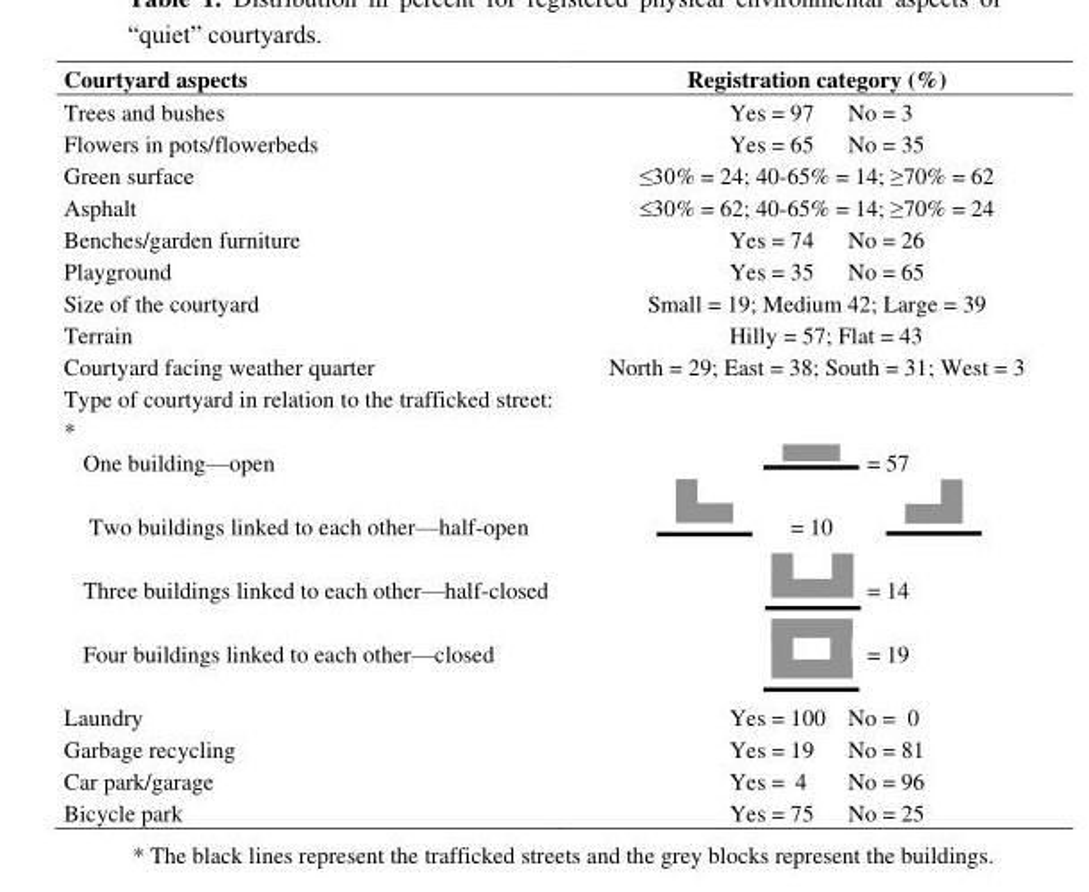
<table><thead><tr><td rowspan="2">Courtyard aspects Trees and bushes</td><td colspan="2">Registration category (%)</td></tr><tr><td>Yes = 97</td><td>No = 3</td></tr></thead><tbody><tr><td>Flowers in pots/flowerbeds</td><td>Yes = 65</td><td>No = 35</td></tr><tr><td>Green surface</td><td colspan="2">≤30% = 24; 40-65% = 14; ≥70% = 62</td></tr><tr><td>Asphalt</td><td colspan="2">≤30% = 62; 40-65% = 14; ≥70% = 24</td></tr><tr><td>Benches/garden furniture</td><td>Yes = 74</td><td>No = 26</td></tr><tr><td>Playground</td><td>Yes = 35</td><td>No = 65</td></tr><tr><td>Size of the courtyard</td><td colspan="2">Small = 19; Medium 42; Large = 39</td></tr><tr><td>Terrain</td><td colspan="2">Hilly = 57; Flat = 43</td></tr><tr><td>Courtyard facing weather quarter</td><td colspan="2">North = 29; East = 38; South = 31; West = 3</td></tr><tr><td colspan="3">Type of courtyard in relation to the trafficked street: *</td></tr><tr><td>One building—open</td><td rowspan="4" colspan="2">= 57 = 10 = 14 = 19</td></tr><tr><td>Two buildings linked to each other—half-open</td></tr><tr><td>Three buildings linked to each other—half-closed</td></tr><tr><td>Four buildings linked to each other—closed</td></tr><tr><td>Laundry</td><td>Yes = 100</td><td>No = 0</td></tr><tr><td>Garbage recycling</td><td>Yes = 19</td><td>No = 81</td></tr><tr><td>Car park/garage</td><td>Yes = 4</td><td>No = 96</td></tr><tr><td>Bicycle park</td><td>Yes = 75</td><td>No = 25</td></tr></tbody></table>